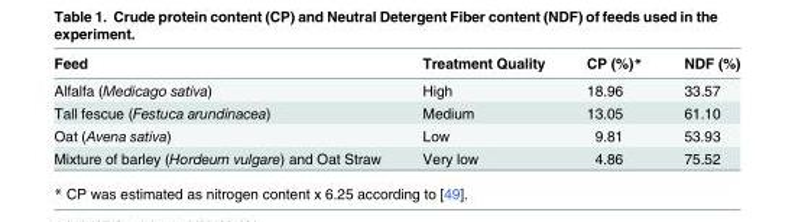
<table><thead><tr><td>Feed</td><td>Treatment Quality</td><td>CP (%)*</td><td>NDF (%)</td></tr></thead><tbody><tr><td>Alfalfa (Medicago sativa)</td><td>High</td><td>18.96</td><td>33.57</td></tr><tr><td>Tall fescue (Festuca arundinacea)</td><td>Medium</td><td>13.05</td><td>61.10</td></tr><tr><td>Oat (Avena sativa)</td><td>Low</td><td>9.81</td><td>53.93</td></tr><tr><td>Mixture of barley (Hordeum vulgare) and Oat Straw</td><td>Very low</td><td>4.86</td><td>75.52</td></tr></tbody></table>